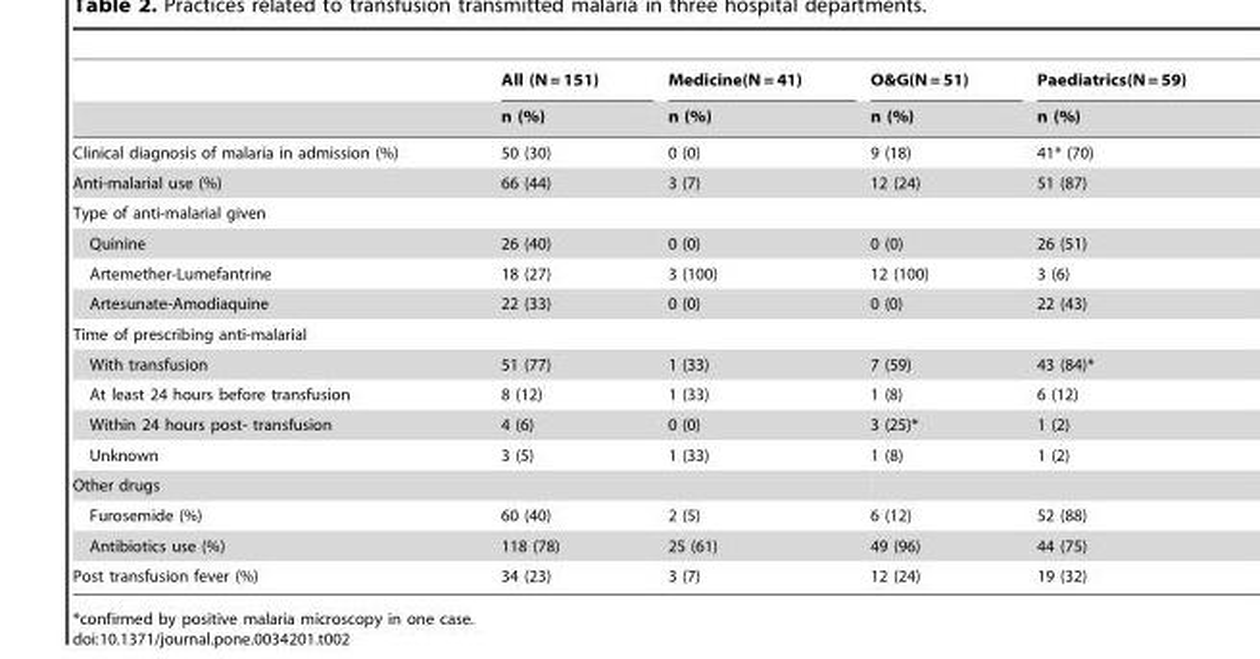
<table><thead><tr><td rowspan="2"></td><td rowspan="2">All (N = 151) n (%)</td><td rowspan="2">Medicine(N = 41) n (%)</td><td rowspan="2">O&amp;G(N = 51) n (%)</td><td rowspan="2">Paediatrics(N = 59) n (%)</td></tr><tr></tr></thead><tbody><tr><td>Clinical diagnosis of malaria in admission (%)</td><td>50 (30)</td><td>0 (0)</td><td>9 (18)</td><td>41* (70)</td></tr><tr><td>Anti-malarial use (%)</td><td>66 (44)</td><td>3 (7)</td><td>12 (24)</td><td>51 (87)</td></tr><tr><td colspan="5">Type of anti-malarial given</td></tr><tr><td>Quinine</td><td>26 (40)</td><td>0 (0)</td><td>0 (0)</td><td>26 (51)</td></tr><tr><td>Artemether-Lumefantrine</td><td>18 (27)</td><td>3 (100)</td><td>12 (100)</td><td>3 (6)</td></tr><tr><td>Artesunate-Amodiaquine</td><td>22 (33)</td><td>0 (0)</td><td>0 (0)</td><td>22 (43)</td></tr><tr><td colspan="5">Time of prescribing anti-malarial</td></tr><tr><td>With transfusion</td><td>51 (77)</td><td>1 (33)</td><td>7 (59)</td><td>43 (84)*</td></tr><tr><td>At least 24 hours before transfusion</td><td>8 (12)</td><td>1 (33)</td><td>1 (8)</td><td>6 (12)</td></tr><tr><td>Within 24 hours post- transfusion</td><td>4 (6)</td><td>0 (0)</td><td>3 (25)*</td><td>1 (2)</td></tr><tr><td>Unknown</td><td>3 (5)</td><td>1 (33)</td><td>1 (8)</td><td>1 (2)</td></tr><tr><td colspan="5">Other drugs</td></tr><tr><td>Furosemide (%)</td><td>60 (40)</td><td>2 (5)</td><td>6 (12)</td><td>52 (88)</td></tr><tr><td>Antibiotics use (%)</td><td>118 (78)</td><td>25 (61)</td><td>49 (96)</td><td>44 (75)</td></tr><tr><td>Post transfusion fever (%)</td><td>34 (23)</td><td>3 (7)</td><td>12 (24)</td><td>19 (32)</td></tr></tbody></table>